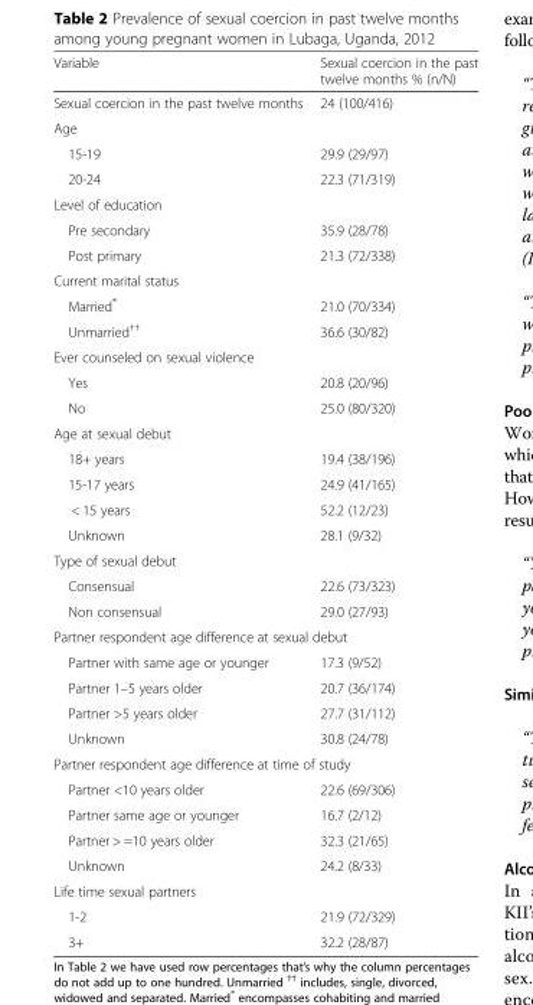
<table><thead><tr><td>Variable</td><td>Sexual coercion in the past twelve months % (n/N)</td></tr></thead><tbody><tr><td>Sexual coercion in the past twelve months</td><td>24 (100/416)</td></tr><tr><td colspan="2">Age</td></tr><tr><td>15-19</td><td>29.9 (29/97)</td></tr><tr><td>20-24</td><td>22.3 (71/319)</td></tr><tr><td colspan="2">Level of education</td></tr><tr><td>Pre secondary</td><td>35.9 (28/78)</td></tr><tr><td>Post primary</td><td>21.3 (72/338)</td></tr><tr><td colspan="2">Current marital status</td></tr><tr><td>Married<sup>®</sup></td><td>21.0 (70/334)</td></tr><tr><td>Unmarried<sup>††</sup></td><td>36.6 (30/82)</td></tr><tr><td colspan="2">Ever counseled on sexual violence</td></tr><tr><td>Yes</td><td>20.8 (20/96)</td></tr><tr><td>No</td><td>25.0 (80/320)</td></tr><tr><td colspan="2">Age at sexual debut</td></tr><tr><td>18+ years</td><td>19.4 (38/196)</td></tr><tr><td>15-17 years</td><td>24.9 (41/165)</td></tr><tr><td>&lt; 15 years</td><td>52.2 (12/23)</td></tr><tr><td>Unknown</td><td>28.1 (9/32)</td></tr><tr><td colspan="2">Type of sexual debut</td></tr><tr><td>Consensual</td><td>22.6 (73/323)</td></tr><tr><td>Non consensual</td><td>29.0 (27/93)</td></tr><tr><td colspan="2">Partner respondent age difference at sexual debut</td></tr><tr><td>Partner with same age or younger</td><td>17.3 (9/52)</td></tr><tr><td>Partner 1–5 years older</td><td>20.7 (36/174)</td></tr><tr><td>Partner &gt;5 years older</td><td>27.7 (31/112)</td></tr><tr><td>Unknown</td><td>30.8 (24/78)</td></tr><tr><td colspan="2">Partner respondent age difference at time of study</td></tr><tr><td>Partner &lt;10 years older</td><td>22.6 (69/306)</td></tr><tr><td>Partner same age or younger</td><td>16.7 (2/12)</td></tr><tr><td>Partner &gt; =10 years older</td><td>32.3 (21/65)</td></tr><tr><td>Unknown</td><td>24.2 (8/33)</td></tr><tr><td colspan="2">Life time sexual partners</td></tr><tr><td>1-2</td><td>21.9 (72/329)</td></tr><tr><td>3+</td><td>32.2 (28/87)</td></tr></tbody></table>